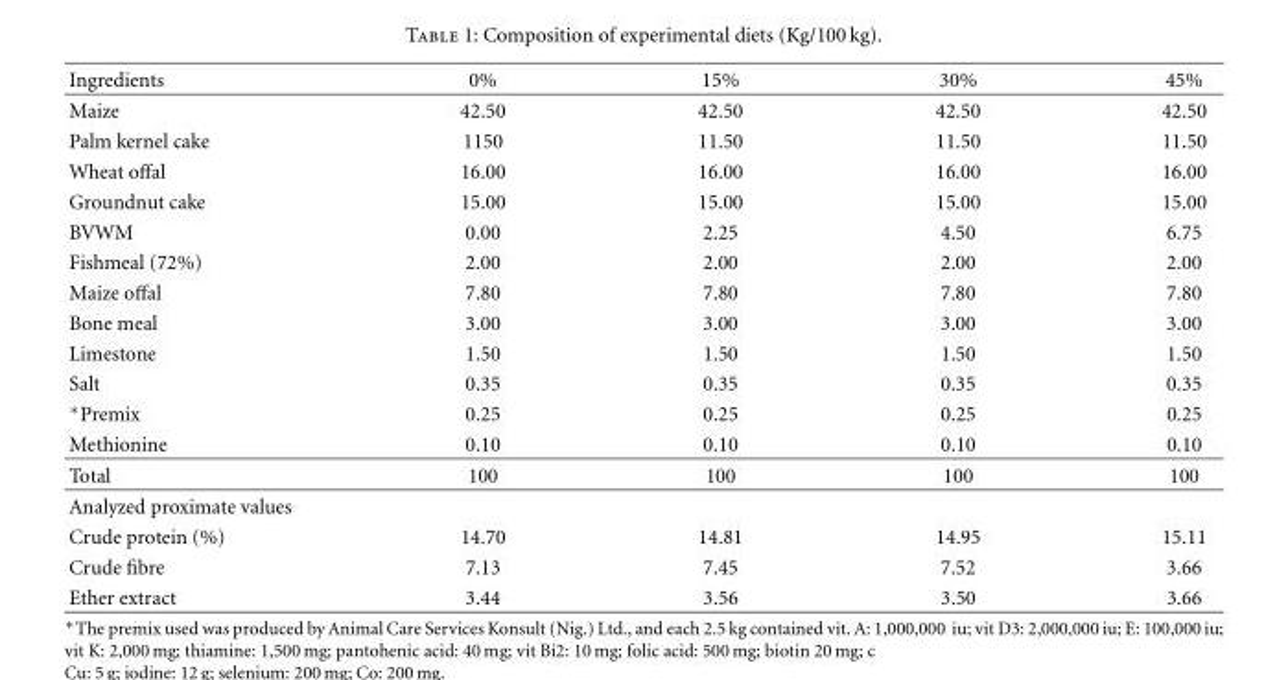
<table><thead><tr><td>Ingredients</td><td>0%</td><td>15%</td><td>30%</td><td>45%</td></tr></thead><tbody><tr><td>Maize</td><td>42.50</td><td>42.50</td><td>42.50</td><td>42.50</td></tr><tr><td>Palm kernel cake</td><td>1150</td><td>11.50</td><td>11.50</td><td>11.50</td></tr><tr><td>Wheat offal</td><td>16.00</td><td>16.00</td><td>16.00</td><td>16.00</td></tr><tr><td>Groundnut cake</td><td>15.00</td><td>15.00</td><td>15.00</td><td>15.00</td></tr><tr><td>BVWM</td><td>0.00</td><td>2.25</td><td>4.50</td><td>6.75</td></tr><tr><td>Fishmeal (72%)</td><td>2.00</td><td>2.00</td><td>2.00</td><td>2.00</td></tr><tr><td>Maize offal</td><td>7.80</td><td>7.80</td><td>7.80</td><td>7.80</td></tr><tr><td>Bone meal</td><td>3.00</td><td>3.00</td><td>3.00</td><td>3.00</td></tr><tr><td>Limestone</td><td>1.50</td><td>1.50</td><td>1.50</td><td>1.50</td></tr><tr><td>Salt</td><td>0.35</td><td>0.35</td><td>0.35</td><td>0.35</td></tr><tr><td>∗Premix</td><td>0.25</td><td>0.25</td><td>0.25</td><td>0.25</td></tr><tr><td>Methionine</td><td>0.10</td><td>0.10</td><td>0.10</td><td>0.10</td></tr><tr><td>Total</td><td>100</td><td>100</td><td>100</td><td>100</td></tr><tr><td colspan="5">Analyzed proximate values</td></tr><tr><td>Crude protein (%)</td><td>14.70</td><td>14.81</td><td>14.95</td><td>15.11</td></tr><tr><td>Crude fibre</td><td>7.13</td><td>7.45</td><td>7.52</td><td>3.66</td></tr><tr><td>Ether extract</td><td>3.44</td><td>3.56</td><td>3.50</td><td>3.66</td></tr></tbody></table>